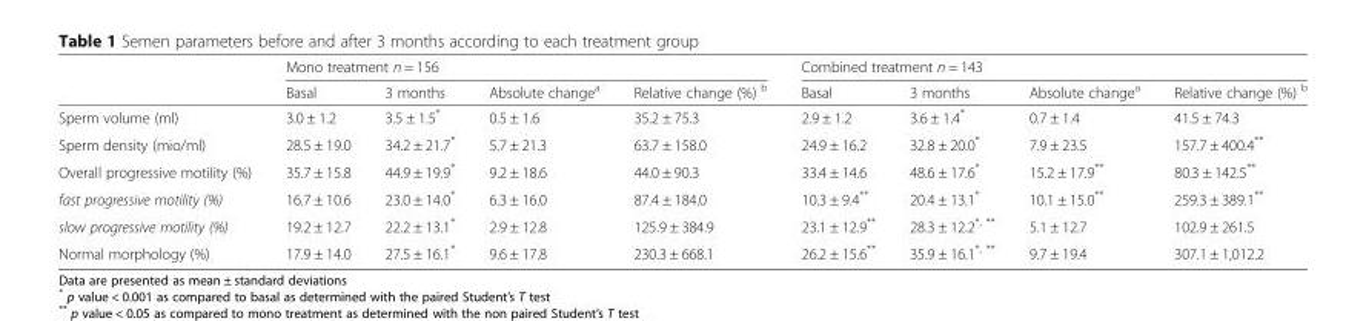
<table><thead><tr><td rowspan="2"></td><td colspan="4">Mono treatment n = 156</td><td colspan="4">Combined treatment n = 143</td></tr><tr><td>Basal</td><td>3 months</td><td>Absolute change<sup>a</sup></td><td>Relative change (%) <sup>b</sup></td><td>Basal</td><td>3 months</td><td>Absolute change<sup>a</sup></td><td>Relative change (%) <sup>b</sup></td></tr></thead><tbody><tr><td>Sperm volume (ml)</td><td>3.0 ± 1.2</td><td>3.5 ± 1.5*</td><td>0.5 ± 1.6</td><td>35.2 ± 75.3</td><td>2.9 ± 1.2</td><td>3.6 ± 1.4*</td><td>0.7 ± 1.4</td><td>41.5 ± 74.3</td></tr><tr><td>Sperm density (mio/ml)</td><td>28.5 ± 19.0</td><td>34.2 ± 21.7*</td><td>5.7 ± 21.3</td><td>63.7 ± 158.0</td><td>24.9 ± 16.2</td><td>32.8 ± 20.0*</td><td>7.9 ± 23.5</td><td>157.7 ± 400.4**</td></tr><tr><td>Overall progressive motility (%)</td><td>35.7 ± 15.8</td><td>44.9 ± 19.9*</td><td>9.2 ± 18.6</td><td>44.0 ± 90.3</td><td>33.4 ± 14.6</td><td>48.6 ± 17.6*</td><td>15.2 ± 17.9**</td><td>80.3 ± 142.5**</td></tr><tr><td>fast progressive motility (%)</td><td>16.7 ± 10.6</td><td>23.0 ± 14.0*</td><td>6.3 ± 16.0</td><td>87.4 ± 184.0</td><td>10.3 ± 9.4**</td><td>20.4 ± 13.1*</td><td>10.1 ± 15.0**</td><td>259.3 ± 389.1**</td></tr><tr><td>slow progressive motility (%)</td><td>19.2 ± 12.7</td><td>22.2 ± 13.1*</td><td>2.9 ± 12.8</td><td>125.9 ± 384.9</td><td>23.1 ± 12.9**</td><td>28.3 ± 12.2<sup>*, **</sup></td><td>5.1 ± 12.7</td><td>102.9 ± 261.5</td></tr><tr><td>Normal morphology (%)</td><td>17.9 ± 14.0</td><td>27.5 ± 16.1*</td><td>9.6 ± 17.8</td><td>230.3 ± 668.1</td><td>26.2 ± 15.6**</td><td>35.9 ± 16.1<sup>*, **</sup></td><td>9.7 ± 19.4</td><td>307.1 ± 1,012.2</td></tr></tbody></table>